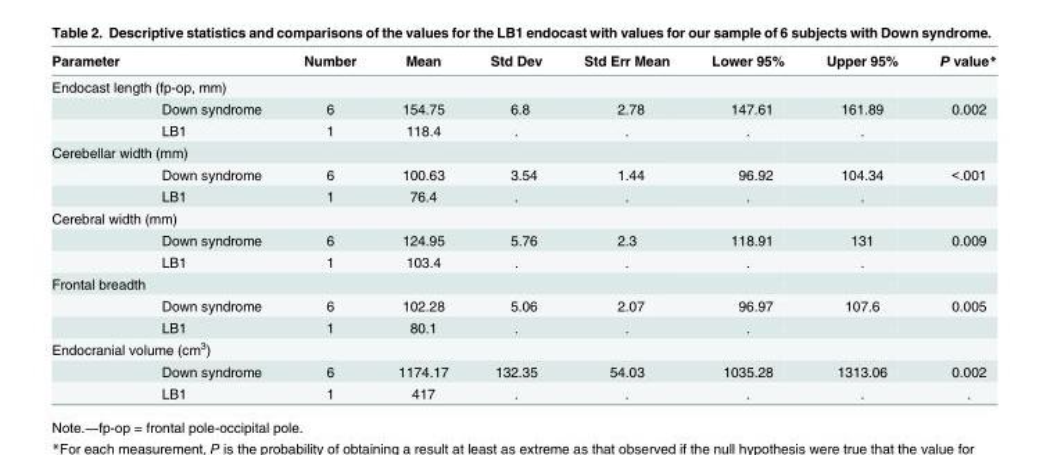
<table><thead><tr><td>Parameter</td><td></td><td>Number</td><td>Mean</td><td>Std Dev</td><td>Std Err Mean</td><td>Lower 95%</td><td>Upper 95%</td><td>P value*</td></tr></thead><tbody><tr><td colspan="9">Endocast length (fp-op, mm)</td></tr><tr><td></td><td>Down syndrome</td><td>6</td><td>154.75</td><td>6.8</td><td>2.78</td><td>147.61</td><td>161.89</td><td>0.002</td></tr><tr><td></td><td>LB1</td><td>1</td><td>118.4</td><td>.</td><td>.</td><td>.</td><td>.</td><td></td></tr><tr><td colspan="9">Cerebellar width (mm)</td></tr><tr><td></td><td>Down syndrome</td><td>6</td><td>100.63</td><td>3.54</td><td>1.44</td><td>96.92</td><td>104.34</td><td>&lt;.001</td></tr><tr><td></td><td>LB1</td><td>1</td><td>76.4</td><td>.</td><td>.</td><td>.</td><td>.</td><td></td></tr><tr><td colspan="9">Cerebral width (mm)</td></tr><tr><td></td><td>Down syndrome</td><td>6</td><td>124.95</td><td>5.76</td><td>2.3</td><td>118.91</td><td>131</td><td>0.009</td></tr><tr><td></td><td>LB1</td><td>1</td><td>103.4</td><td>.</td><td>.</td><td>.</td><td>.</td><td></td></tr><tr><td colspan="9">Frontal breadth</td></tr><tr><td></td><td>Down syndrome</td><td>6</td><td>102.28</td><td>5.06</td><td>2.07</td><td>96.97</td><td>107.6</td><td>0.005</td></tr><tr><td></td><td>LB1</td><td>1</td><td>80.1</td><td>.</td><td>.</td><td>.</td><td></td><td></td></tr><tr><td colspan="9">Endocranial volume (cm<sup>3</sup>)</td></tr><tr><td></td><td>Down syndrome</td><td>6</td><td>1174.17</td><td>132.35</td><td>54.03</td><td>1035.28</td><td>1313.06</td><td>0.002</td></tr><tr><td></td><td>LB1</td><td>1</td><td>417</td><td>.</td><td>.</td><td>.</td><td>.</td><td>.</td></tr></tbody></table>